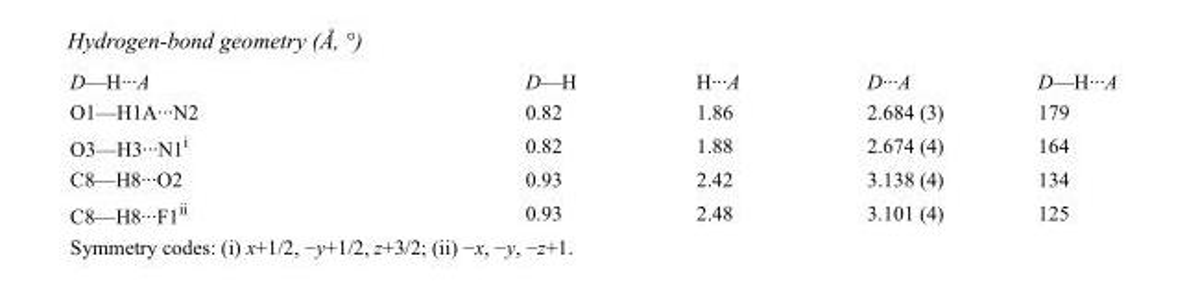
<table><tbody><tr><td>D—H···A</td><td>D—H</td><td>H···A</td><td>D···A</td><td>D—H···A</td></tr><tr><td>O1—H1A···N2</td><td>0.82</td><td>1.86</td><td>2.684 (3)</td><td>179</td></tr><tr><td>O3—H3···N1<sup>i</sup></td><td>0.82</td><td>1.88</td><td>2.674 (4)</td><td>164</td></tr><tr><td>C8—H8···O2</td><td>0.93</td><td>2.42</td><td>3.138 (4)</td><td>134</td></tr><tr><td>C8—H8···F1<sup>ii</sup></td><td>0.93</td><td>2.48</td><td>3.101 (4)</td><td>125</td></tr></tbody></table>